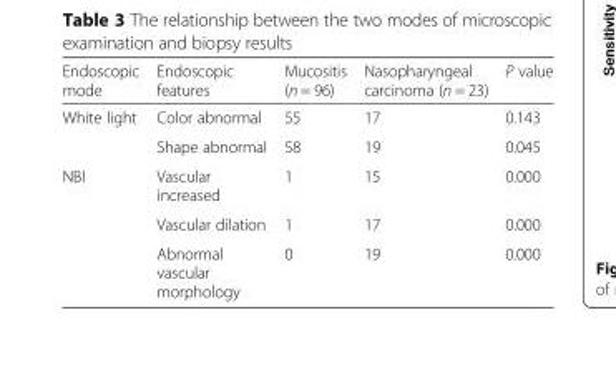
<table><thead><tr><td>Endoscopic mode</td><td>Endoscopic features</td><td>Mucositis (n = 96)</td><td>Nasopharyngeal carcinoma (n = 23)</td><td>P value</td></tr></thead><tbody><tr><td rowspan="2">White light</td><td>Color abnormal</td><td>55</td><td>17</td><td>0.143</td></tr><tr><td>Shape abnormal</td><td>58</td><td>19</td><td>0.045</td></tr><tr><td rowspan="3">NBI</td><td>Vascular increased</td><td>1</td><td>15</td><td>0.000</td></tr><tr><td>Vascular dilation</td><td>1</td><td>17</td><td>0.000</td></tr><tr><td>Abnormal vascular morphology</td><td>0</td><td>19</td><td>0.000</td></tr></tbody></table>